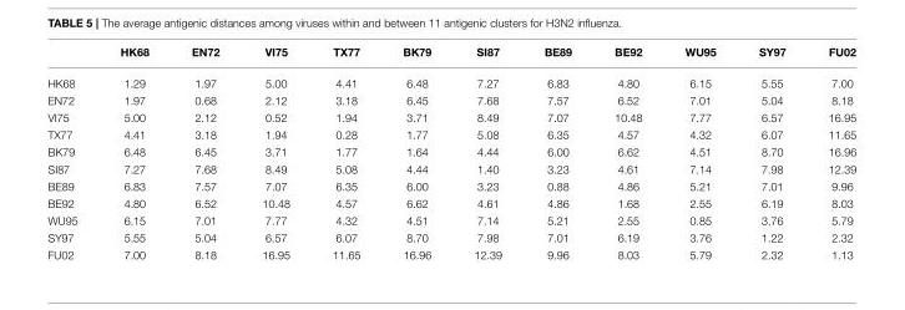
<table><thead><tr><td></td><td>HK68</td><td>EN72</td><td>VI75</td><td>TX77</td><td>BK79</td><td>SI87</td><td>BE89</td><td>BE92</td><td>WU95</td><td>SY97</td><td>FU02</td></tr></thead><tbody><tr><td>HK68</td><td>1.29</td><td>1.97</td><td>5.00</td><td>4.41</td><td>6.48</td><td>7.27</td><td>6.83</td><td>4.80</td><td>6.15</td><td>5.55</td><td>7.00</td></tr><tr><td>EN72</td><td>1.97</td><td>0.68</td><td>2.12</td><td>3.18</td><td>6.45</td><td>7.68</td><td>7.57</td><td>6.52</td><td>7.01</td><td>5.04</td><td>8.18</td></tr><tr><td>VI75</td><td>5.00</td><td>2.12</td><td>0.52</td><td>1.94</td><td>3.71</td><td>8.49</td><td>7.07</td><td>10.48</td><td>7.77</td><td>6.57</td><td>16.95</td></tr><tr><td>TX77</td><td>4.41</td><td>3.18</td><td>1.94</td><td>0.28</td><td>1.77</td><td>5.08</td><td>6.35</td><td>4.57</td><td>4.32</td><td>6.07</td><td>11.65</td></tr><tr><td>BK79</td><td>6.48</td><td>6.45</td><td>3.71</td><td>1.77</td><td>1.64</td><td>4.44</td><td>6.00</td><td>6.62</td><td>4.51</td><td>8.70</td><td>16.96</td></tr><tr><td>SI87</td><td>7.27</td><td>7.68</td><td>8.49</td><td>5.08</td><td>4.44</td><td>1.40</td><td>3.23</td><td>4.61</td><td>7.14</td><td>7.98</td><td>12.39</td></tr><tr><td>BE89</td><td>6.83</td><td>7.57</td><td>7.07</td><td>6.35</td><td>6.00</td><td>3.23</td><td>0.88</td><td>4.86</td><td>5.21</td><td>7.01</td><td>9.96</td></tr><tr><td>BE92</td><td>4.80</td><td>6.52</td><td>10.48</td><td>4.57</td><td>6.62</td><td>4.61</td><td>4.86</td><td>1.68</td><td>2.55</td><td>6.19</td><td>8.03</td></tr><tr><td>WU95</td><td>6.15</td><td>7.01</td><td>7.77</td><td>4.32</td><td>4.51</td><td>7.14</td><td>5.21</td><td>2.55</td><td>0.85</td><td>3.76</td><td>5.79</td></tr><tr><td>SY97</td><td>5.55</td><td>5.04</td><td>6.57</td><td>6.07</td><td>8.70</td><td>7.98</td><td>7.01</td><td>6.19</td><td>3.76</td><td>1.22</td><td>2.32</td></tr><tr><td>FU02</td><td>7.00</td><td>8.18</td><td>16.95</td><td>11.65</td><td>16.96</td><td>12.39</td><td>9.96</td><td>8.03</td><td>5.79</td><td>2.32</td><td>1.13</td></tr></tbody></table>